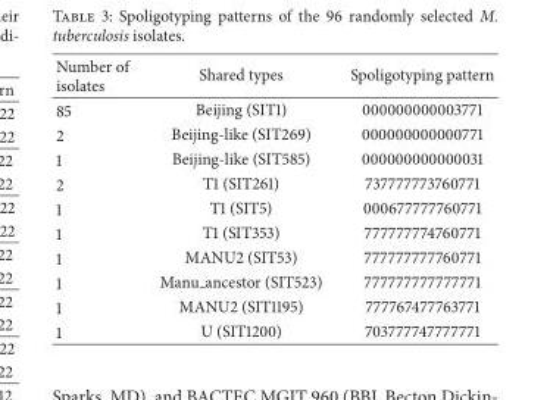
<table><thead><tr><td>Number of isolates</td><td>Shared types</td><td>Spoligotyping pattern</td></tr></thead><tbody><tr><td>85</td><td>Beijing (SIT1)</td><td>000000000003771</td></tr><tr><td>2</td><td>Beijing-like (SIT269)</td><td>000000000000771</td></tr><tr><td>1</td><td>Beijing-like (SIT585)</td><td>000000000000031</td></tr><tr><td>2</td><td>T1 (SIT261)</td><td>737777773760771</td></tr><tr><td>1</td><td>T1 (SIT5)</td><td>000677777760771</td></tr><tr><td>1</td><td>T1 (SIT353)</td><td>777777774760771</td></tr><tr><td>1</td><td>MANU2 (SIT53)</td><td>777777777760771</td></tr><tr><td>1</td><td>Manu ancestor (SIT523)</td><td>777777777777771</td></tr><tr><td>1</td><td>MANU2 (SIT1195)</td><td>777767477763771</td></tr><tr><td>1</td><td>U (SIT1200)</td><td>703777747777771</td></tr></tbody></table>